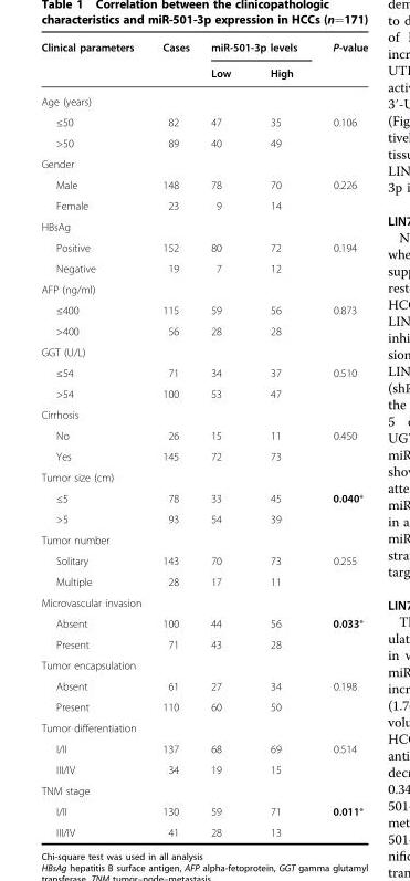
<table><thead><tr><td rowspan="2">Clinical parameters</td><td rowspan="2">Cases</td><td colspan="2">miR-501-3p levels</td><td rowspan="2">P-value</td></tr><tr><td>Low</td><td>High</td></tr></thead><tbody><tr><td colspan="5">Age (years)</td></tr><tr><td>≤50</td><td>82</td><td>47</td><td>35</td><td>0.106</td></tr><tr><td>&gt;50</td><td>89</td><td>40</td><td>49</td><td></td></tr><tr><td colspan="5">Gender</td></tr><tr><td>Male</td><td>148</td><td>78</td><td>70</td><td>0.226</td></tr><tr><td>Female</td><td>23</td><td>9</td><td>14</td><td></td></tr><tr><td colspan="5">HBsAg</td></tr><tr><td>Positive</td><td>152</td><td>80</td><td>72</td><td>0.194</td></tr><tr><td>Negative</td><td>19</td><td>7</td><td>12</td><td></td></tr><tr><td colspan="5">AFP (ng/ml)</td></tr><tr><td>≤400</td><td>115</td><td>59</td><td>56</td><td>0.873</td></tr><tr><td>&gt;400</td><td>56</td><td>28</td><td>28</td><td></td></tr><tr><td colspan="5">GGT (U/L)</td></tr><tr><td>≤54</td><td>71</td><td>34</td><td>37</td><td>0.510</td></tr><tr><td>&gt;54</td><td>100</td><td>53</td><td>47</td><td></td></tr><tr><td colspan="5">Cirrhosis</td></tr><tr><td>No</td><td>26</td><td>15</td><td>11</td><td>0.450</td></tr><tr><td>Yes</td><td>145</td><td>72</td><td>73</td><td></td></tr><tr><td colspan="5">Tumor size (cm)</td></tr><tr><td>≤5</td><td>78</td><td>33</td><td>45</td><td>0.040*</td></tr><tr><td>&gt;5</td><td>93</td><td>54</td><td>39</td><td></td></tr><tr><td colspan="5">Tumor number</td></tr><tr><td>Solitary</td><td>143</td><td>70</td><td>73</td><td>0.255</td></tr><tr><td>Multiple</td><td>28</td><td>17</td><td>11</td><td></td></tr><tr><td colspan="5">Microvascular invasion</td></tr><tr><td>Absent</td><td>100</td><td>44</td><td>56</td><td>0.033*</td></tr><tr><td>Present</td><td>71</td><td>43</td><td>28</td><td></td></tr><tr><td colspan="5">Tumor encapsulation</td></tr><tr><td>Absent</td><td>61</td><td>27</td><td>34</td><td>0.198</td></tr><tr><td>Present</td><td>110</td><td>60</td><td>50</td><td></td></tr><tr><td colspan="5">Tumor differentiation</td></tr><tr><td>I/II</td><td>137</td><td>68</td><td>69</td><td>0.514</td></tr><tr><td>III/IV</td><td>34</td><td>19</td><td>15</td><td></td></tr><tr><td colspan="5">TNM stage</td></tr><tr><td>I/II</td><td>130</td><td>59</td><td>71</td><td>0.011*</td></tr><tr><td>III/IV</td><td>41</td><td>28</td><td>13</td><td></td></tr></tbody></table>